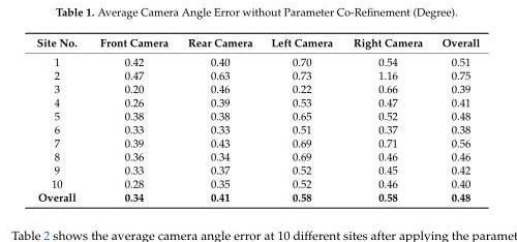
<table><thead><tr><td>Site No.</td><td>Front Camera</td><td>Rear Camera</td><td>Left Camera</td><td>Right Camera</td><td>Overall</td></tr></thead><tbody><tr><td>1</td><td>0.42</td><td>0.40</td><td>0.70</td><td>0.54</td><td>0.51</td></tr><tr><td>2</td><td>0.47</td><td>0.63</td><td>0.73</td><td>1.16</td><td>0.75</td></tr><tr><td>3</td><td>0.20</td><td>0.46</td><td>0.22</td><td>0.66</td><td>0.39</td></tr><tr><td>4</td><td>0.26</td><td>0.39</td><td>0.53</td><td>0.47</td><td>0.41</td></tr><tr><td>5</td><td>0.38</td><td>0.38</td><td>0.65</td><td>0.52</td><td>0.48</td></tr><tr><td>6</td><td>0.33</td><td>0.33</td><td>0.51</td><td>0.37</td><td>0.38</td></tr><tr><td>7</td><td>0.39</td><td>0.43</td><td>0.69</td><td>0.71</td><td>0.56</td></tr><tr><td>8</td><td>0.36</td><td>0.34</td><td>0.69</td><td>0.46</td><td>0.46</td></tr><tr><td>9</td><td>0.33</td><td>0.37</td><td>0.52</td><td>0.45</td><td>0.42</td></tr><tr><td>10</td><td>0.28</td><td>0.35</td><td>0.52</td><td>0.46</td><td>0.40</td></tr><tr><td>Overall</td><td>0.34</td><td>0.41</td><td>0.58</td><td>0.58</td><td>0.48</td></tr></tbody></table>